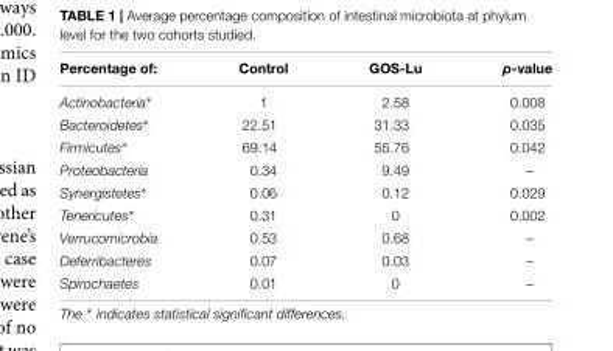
<table><thead><tr><td>Percentage of:</td><td>Control</td><td>GOS-Lu</td><td>p-value</td></tr></thead><tbody><tr><td>Actinobacteria∗</td><td>1</td><td>2.58</td><td>0.008</td></tr><tr><td>Bacteroidetes∗</td><td>22.51</td><td>31.33</td><td>0.035</td></tr><tr><td>Firmicutes∗</td><td>69.14</td><td>55.76</td><td>0.042</td></tr><tr><td>Proteobacteria</td><td>0.34</td><td>9.49</td><td>–</td></tr><tr><td>Synergistetes∗</td><td>0.06</td><td>0.12</td><td>0.029</td></tr><tr><td>Tenericutes∗</td><td>0.31</td><td>0</td><td>0.002</td></tr><tr><td>Verrucomicrobia</td><td>0.53</td><td>0.68</td><td>–</td></tr><tr><td>Deferribacteres</td><td>0.07</td><td>0.03</td><td>–</td></tr><tr><td>Spirochaetes</td><td>0.01</td><td>0</td><td>–</td></tr></tbody></table>